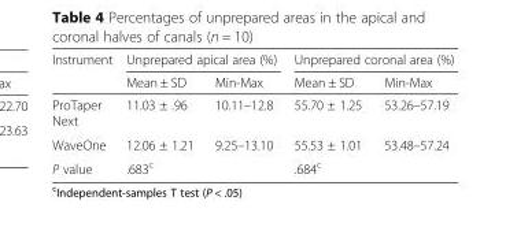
<table><thead><tr><td rowspan="2">Instrument</td><td colspan="2">Unprepared apical area (%)</td><td colspan="2">Unprepared coronal area (%)</td></tr><tr><td>Mean ± SD</td><td>Min-Max</td><td>Mean ± SD</td><td>Min-Max</td></tr></thead><tbody><tr><td>ProTaper Next</td><td>11.03 ± .96</td><td>10.11–12.8</td><td>55.70 ± 1.25</td><td>53.26–57.19</td></tr><tr><td>WaveOne</td><td>12.06 ± 1.21</td><td>9.25–13.10</td><td>55.53 ± 1.01</td><td>53.48–57.24</td></tr><tr><td>P value</td><td colspan="2">.683<sup>c</sup></td><td colspan="2">.684<sup>c</sup></td></tr></tbody></table>